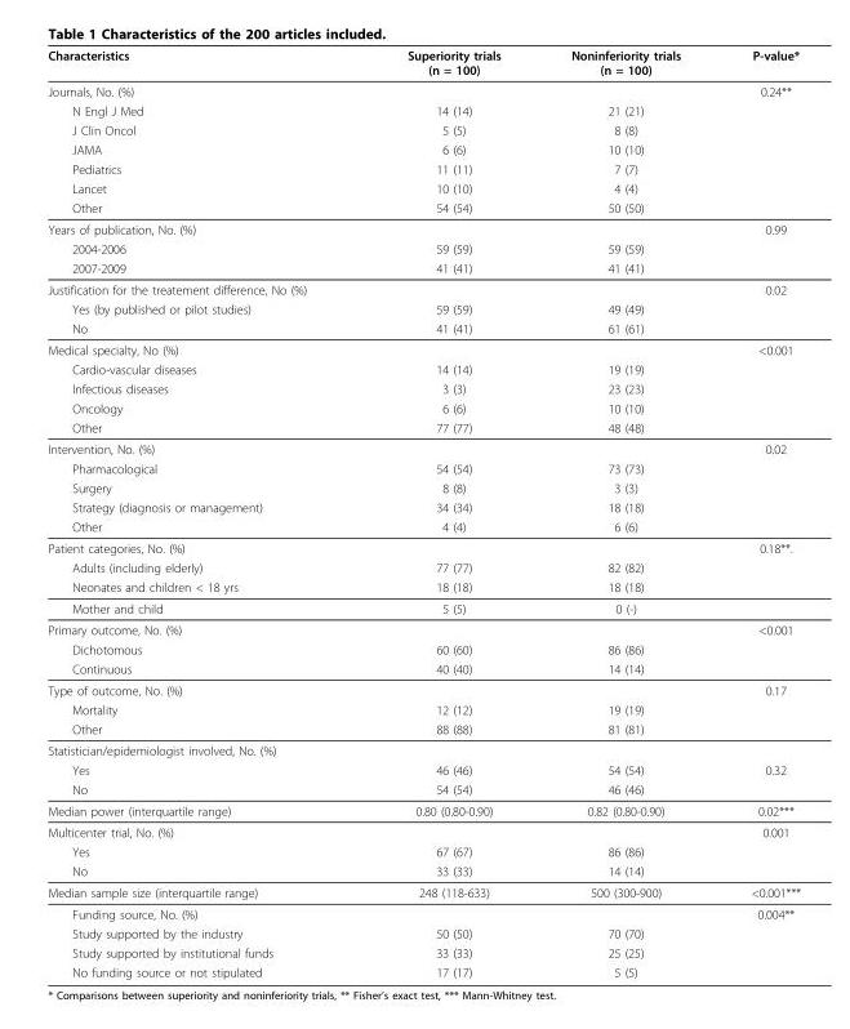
<table><thead><tr><td>Characteristics</td><td>Superiority trials (n = 100)</td><td>Noninferiority trials (n = 100)</td><td>P-value*</td></tr></thead><tbody><tr><td>Journals, No. (%)</td><td></td><td></td><td>0.24**</td></tr><tr><td>N Engl J Med</td><td>14 (14)</td><td>21 (21)</td><td></td></tr><tr><td>J Clin Oncol</td><td>5 (5)</td><td>8 (8)</td><td></td></tr><tr><td>JAMA</td><td>6 (6)</td><td>10 (10)</td><td></td></tr><tr><td>Pediatrics</td><td>11 (11)</td><td>7 (7)</td><td></td></tr><tr><td>Lancet</td><td>10 (10)</td><td>4 (4)</td><td></td></tr><tr><td>Other</td><td>54 (54)</td><td>50 (50)</td><td></td></tr><tr><td>Years of publication, No. (%)</td><td></td><td></td><td>0.99</td></tr><tr><td>2004-2006</td><td>59 (59)</td><td>59 (59)</td><td></td></tr><tr><td>2007-2009</td><td>41 (41)</td><td>41 (41)</td><td></td></tr><tr><td>Justification for the treatement difference, No (%)</td><td></td><td></td><td>0.02</td></tr><tr><td>Yes (by published or pilot studies)</td><td>59 (59)</td><td>49 (49)</td><td></td></tr><tr><td>No</td><td>41 (41)</td><td>61 (61)</td><td></td></tr><tr><td>Medical specialty, No (%)</td><td></td><td></td><td>&lt;0.001</td></tr><tr><td>Cardio-vascular diseases</td><td>14 (14)</td><td>19 (19)</td><td></td></tr><tr><td>Infectious diseases</td><td>3 (3)</td><td>23 (23)</td><td></td></tr><tr><td>Oncology</td><td>6 (6)</td><td>10 (10)</td><td></td></tr><tr><td>Other</td><td>77 (77)</td><td>48 (48)</td><td></td></tr><tr><td>Intervention, No. (%)</td><td></td><td></td><td>0.02</td></tr><tr><td>Pharmacological</td><td>54 (54)</td><td>73 (73)</td><td></td></tr><tr><td>Surgery</td><td>8 (8)</td><td>3 (3)</td><td></td></tr><tr><td>Strategy (diagnosis or management)</td><td>34 (34)</td><td>18 (18)</td><td></td></tr><tr><td>Other</td><td>4 (4)</td><td>6 (6)</td><td></td></tr><tr><td>Patient categories, No. (%)</td><td></td><td></td><td>0.18**.</td></tr><tr><td>Adults (including elderly)</td><td>77 (77)</td><td>82 (82)</td><td></td></tr><tr><td>Neonates and children &lt; 18 yrs</td><td>18 (18)</td><td>18 (18)</td><td></td></tr><tr><td>Mother and child</td><td>5 (5)</td><td>0 (-)</td><td></td></tr><tr><td>Primary outcome, No. (%)</td><td></td><td></td><td>&lt;0.001</td></tr><tr><td>Dichotomous</td><td>60 (60)</td><td>86 (86)</td><td></td></tr><tr><td>Continuous</td><td>40 (40)</td><td>14 (14)</td><td></td></tr><tr><td>Type of outcome, No. (%)</td><td></td><td></td><td>0.17</td></tr><tr><td>Mortality</td><td>12 (12)</td><td>19 (19)</td><td></td></tr><tr><td>Other</td><td>88 (88)</td><td>81 (81)</td><td></td></tr><tr><td colspan="4">Statistician/epidemiologist involved, No. (%)</td></tr><tr><td>Yes</td><td>46 (46)</td><td>54 (54)</td><td>0.32</td></tr><tr><td>No</td><td>54 (54)</td><td>46 (46)</td><td></td></tr><tr><td>Median power (interquartile range)</td><td>0.80 (0.80-0.90)</td><td>0.82 (0.80-0.90)</td><td>0.02***</td></tr><tr><td>Multicenter trial, No. (%)</td><td></td><td></td><td>0.001</td></tr><tr><td>Yes</td><td>67 (67)</td><td>86 (86)</td><td></td></tr><tr><td>No</td><td>33 (33)</td><td>14 (14)</td><td></td></tr><tr><td>Median sample size (interquartile range)</td><td>248 (118-633)</td><td>500 (300-900)</td><td>&lt;0.001***</td></tr><tr><td>Funding source, No. (%)</td><td></td><td></td><td>0.004**</td></tr><tr><td>Study supported by the industry</td><td>50 (50)</td><td>70 (70)</td><td></td></tr><tr><td>Study supported by institutional funds</td><td>33 (33)</td><td>25 (25)</td><td></td></tr><tr><td>No funding source or not stipulated</td><td>17 (17)</td><td>5 (5)</td><td></td></tr></tbody></table>